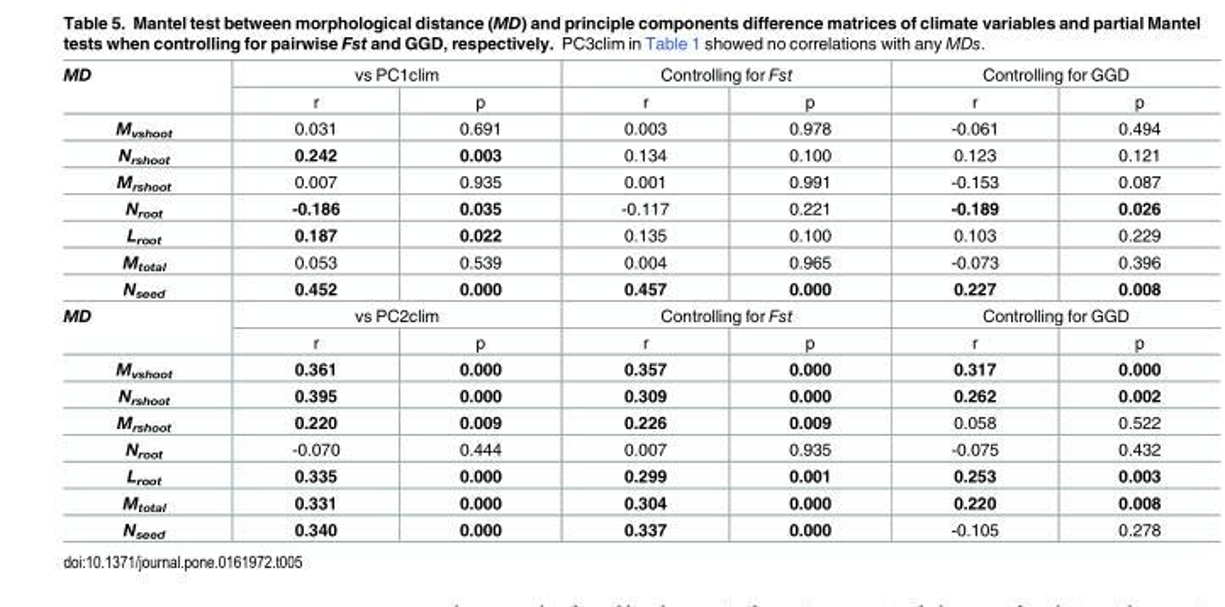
<table><tbody><tr><td rowspan="2">MD</td><td colspan="2">vs PC1clim</td><td colspan="2">Controlling for Fst</td><td colspan="2">Controlling for GGD</td></tr><tr><td>r</td><td>p</td><td>r</td><td>p</td><td>r</td><td>p</td></tr><tr><td>M<sub>vshoot</sub></td><td>0.031</td><td>0.691</td><td>0.003</td><td>0.978</td><td>-0.061</td><td>0.494</td></tr><tr><td>N<sub>rshoot</sub></td><td>0.242</td><td>0.003</td><td>0.134</td><td>0.100</td><td>0.123</td><td>0.121</td></tr><tr><td>M<sub>rshoot</sub></td><td>0.007</td><td>0.935</td><td>0.001</td><td>0.991</td><td>-0.153</td><td>0.087</td></tr><tr><td>N<sub>root</sub></td><td>-0.186</td><td>0.035</td><td>-0.117</td><td>0.221</td><td>-0.189</td><td>0.026</td></tr><tr><td>L<sub>root</sub></td><td>0.187</td><td>0.022</td><td>0.135</td><td>0.100</td><td>0.103</td><td>0.229</td></tr><tr><td>M<sub>total</sub></td><td>0.053</td><td>0.539</td><td>0.004</td><td>0.965</td><td>-0.073</td><td>0.396</td></tr><tr><td>N<sub>seed</sub></td><td>0.452</td><td>0.000</td><td>0.457</td><td>0.000</td><td>0.227</td><td>0.008</td></tr><tr><td rowspan="2">MD</td><td colspan="2">vs PC2clim</td><td colspan="2">Controlling for Fst</td><td colspan="2">Controlling for GGD</td></tr><tr><td>r</td><td>p</td><td>r</td><td>p</td><td>r</td><td>p</td></tr><tr><td>M<sub>vshoot</sub></td><td>0.361</td><td>0.000</td><td>0.357</td><td>0.000</td><td>0.317</td><td>0.000</td></tr><tr><td>N<sub>rshoot</sub></td><td>0.395</td><td>0.000</td><td>0.309</td><td>0.000</td><td>0.262</td><td>0.002</td></tr><tr><td>M<sub>rshoot</sub></td><td>0.220</td><td>0.009</td><td>0.226</td><td>0.009</td><td>0.058</td><td>0.522</td></tr><tr><td>N<sub>root</sub></td><td>-0.070</td><td>0.444</td><td>0.007</td><td>0.935</td><td>-0.075</td><td>0.432</td></tr><tr><td>L<sub>root</sub></td><td>0.335</td><td>0.000</td><td>0.299</td><td>0.001</td><td>0.253</td><td>0.003</td></tr><tr><td>M<sub>total</sub></td><td>0.331</td><td>0.000</td><td>0.304</td><td>0.000</td><td>0.220</td><td>0.008</td></tr><tr><td>N<sub>seed</sub></td><td>0.340</td><td>0.000</td><td>0.337</td><td>0.000</td><td>-0.105</td><td>0.278</td></tr></tbody></table>